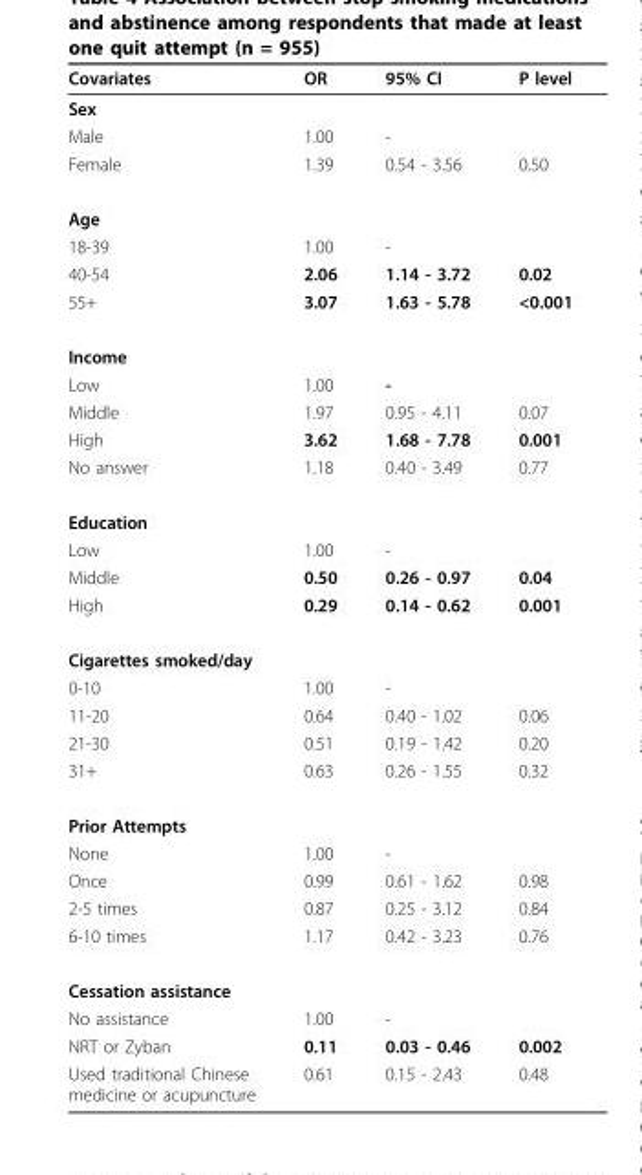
<table><thead><tr><td>Covariates</td><td>OR</td><td>95% CI</td><td>P level</td></tr></thead><tbody><tr><td colspan="4">Sex</td></tr><tr><td>Male</td><td>1.00</td><td>-</td><td></td></tr><tr><td>Female</td><td>1.39</td><td>0.54 - 3.56</td><td>0.50</td></tr><tr><td colspan="4">Age</td></tr><tr><td>18-39</td><td>1.00</td><td>-</td><td></td></tr><tr><td>40-54</td><td>2.06</td><td>1.14 - 3.72</td><td>0.02</td></tr><tr><td>55+</td><td>3.07</td><td>1.63 - 5.78</td><td>&lt;0.001</td></tr><tr><td colspan="4">Income</td></tr><tr><td>Low</td><td>1.00</td><td>-</td><td></td></tr><tr><td>Middle</td><td>1.97</td><td>0.95 - 4.11</td><td>0.07</td></tr><tr><td>High</td><td>3.62</td><td>1.68 - 7.78</td><td>0.001</td></tr><tr><td>No answer</td><td>1.18</td><td>0.40 - 3.49</td><td>0.77</td></tr><tr><td colspan="4">Education</td></tr><tr><td>Low</td><td>1.00</td><td>-</td><td></td></tr><tr><td>Middle</td><td>0.50</td><td>0.26 - 0.97</td><td>0.04</td></tr><tr><td>High</td><td>0.29</td><td>0.14 - 0.62</td><td>0.001</td></tr><tr><td colspan="4">Cigarettes smoked/day</td></tr><tr><td>0-10</td><td>1.00</td><td>-</td><td></td></tr><tr><td>11-20</td><td>0.64</td><td>0.40 - 1.02</td><td>0.06</td></tr><tr><td>21-30</td><td>0.51</td><td>0.19 - 1.42</td><td>0.20</td></tr><tr><td>31+</td><td>0.63</td><td>0.26 - 1.55</td><td>0.32</td></tr><tr><td colspan="4">Prior Attempts</td></tr><tr><td>None</td><td>1.00</td><td>-</td><td></td></tr><tr><td>Once</td><td>0.99</td><td>0.61 - 1.62</td><td>0.98</td></tr><tr><td>2-5 times</td><td>0.87</td><td>0.25 - 3.12</td><td>0.84</td></tr><tr><td>6-10 times</td><td>1.17</td><td>0.42 - 3.23</td><td>0.76</td></tr><tr><td colspan="4">Cessation assistance</td></tr><tr><td>No assistance</td><td>1.00</td><td>-</td><td></td></tr><tr><td>NRT or Zyban</td><td>0.11</td><td>0.03 - 0.46</td><td>0.002</td></tr><tr><td>Used traditional Chinese medicine or acupuncture</td><td>0.61</td><td>0.15 - 2.43</td><td>0.48</td></tr></tbody></table>